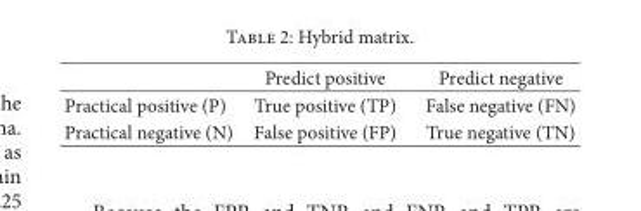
<table><thead><tr><td></td><td>Predict positive</td><td>Predict negative</td></tr></thead><tbody><tr><td>Practical positive (P)</td><td>True positive (TP)</td><td>False negative (FN)</td></tr><tr><td>Practical negative (N)</td><td>False positive (FP)</td><td>True negative (TN)</td></tr></tbody></table>